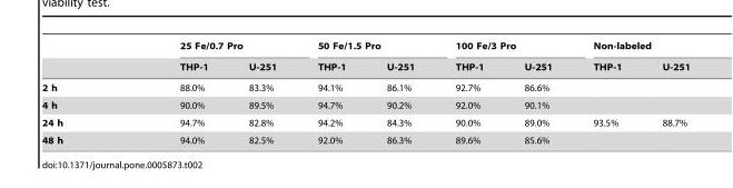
<table><thead><tr><td rowspan="2"></td><td colspan="2">25 Fe/0.7 Pro</td><td colspan="2">50 Fe/1.5 Pro</td><td colspan="2">100 Fe/3 Pro</td><td colspan="2">Non-labeled</td></tr><tr><td>THP-1</td><td>U-251</td><td>THP-1</td><td>U-251</td><td>THP-1</td><td>U-251</td><td>THP-1</td><td>U-251</td></tr></thead><tbody><tr><td>2 h</td><td>88.0%</td><td>83.3%</td><td>94.1%</td><td>86.1%</td><td>92.7%</td><td>86.6%</td><td></td><td></td></tr><tr><td>4 h</td><td>90.0%</td><td>89.5%</td><td>94.7%</td><td>90.2%</td><td>92.0%</td><td>90.1%</td><td></td><td></td></tr><tr><td>24 h</td><td>94.7%</td><td>82.8%</td><td>94.2%</td><td>84.3%</td><td>90.0%</td><td>89.0%</td><td>93.5%</td><td>88.7%</td></tr><tr><td>48 h</td><td>94.0%</td><td>82.5%</td><td>92.0%</td><td>86.3%</td><td>89.6%</td><td>85.6%</td><td></td><td></td></tr></tbody></table>